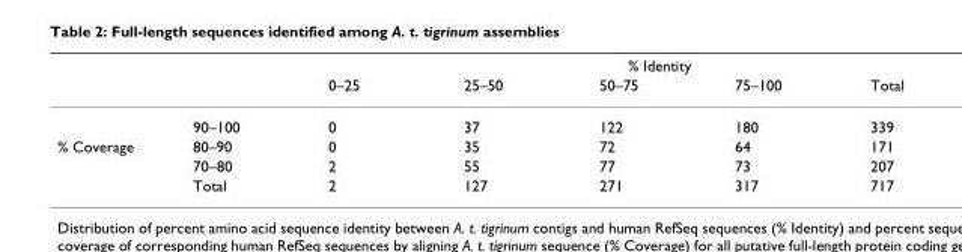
<table><thead><tr><td rowspan="2"></td><td rowspan="2"></td><td colspan="5">% Identity</td></tr><tr><td>0–25</td><td>25–50</td><td>50–75</td><td>75–100</td><td>Total</td></tr></thead><tbody><tr><td></td><td>90–100</td><td>0</td><td>37</td><td>122</td><td>180</td><td>339</td></tr><tr><td rowspan="3">% Coverage</td><td>80–90</td><td>0</td><td>35</td><td>72</td><td>64</td><td>171</td></tr><tr><td>70–80</td><td>2</td><td>55</td><td>77</td><td>73</td><td>207</td></tr><tr><td>Total</td><td>2</td><td>127</td><td>271</td><td>317</td><td>717</td></tr></tbody></table>